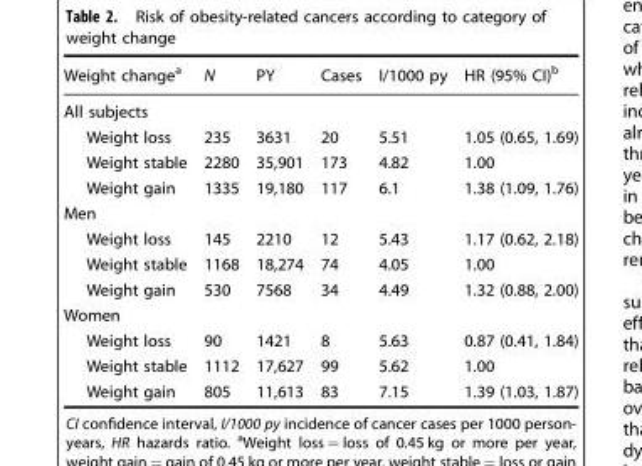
<table><thead><tr><td>Weight change<sup>a</sup></td><td>N</td><td>PY</td><td>Cases</td><td>I/1000 py</td><td>HR (95% CI)<sup>b</sup></td></tr></thead><tbody><tr><td colspan="6">All subjects</td></tr><tr><td>Weight loss</td><td>235</td><td>3631</td><td>20</td><td>5.51</td><td>1.05 (0.65, 1.69)</td></tr><tr><td>Weight stable</td><td>2280</td><td>35,901</td><td>173</td><td>4.82</td><td>1.00</td></tr><tr><td>Weight gain</td><td>1335</td><td>19,180</td><td>117</td><td>6.1</td><td>1.38 (1.09, 1.76)</td></tr><tr><td colspan="6">Men</td></tr><tr><td>Weight loss</td><td>145</td><td>2210</td><td>12</td><td>5.43</td><td>1.17 (0.62, 2.18)</td></tr><tr><td>Weight stable</td><td>1168</td><td>18,274</td><td>74</td><td>4.05</td><td>1.00</td></tr><tr><td>Weight gain</td><td>530</td><td>7568</td><td>34</td><td>4.49</td><td>1.32 (0.88, 2.00)</td></tr><tr><td colspan="6">Women</td></tr><tr><td>Weight loss</td><td>90</td><td>1421</td><td>8</td><td>5.63</td><td>0.87 (0.41, 1.84)</td></tr><tr><td>Weight stable</td><td>1112</td><td>17,627</td><td>99</td><td>5.62</td><td>1.00</td></tr><tr><td>Weight gain</td><td>805</td><td>11,613</td><td>83</td><td>7.15</td><td>1.39 (1.03, 1.87)</td></tr></tbody></table>